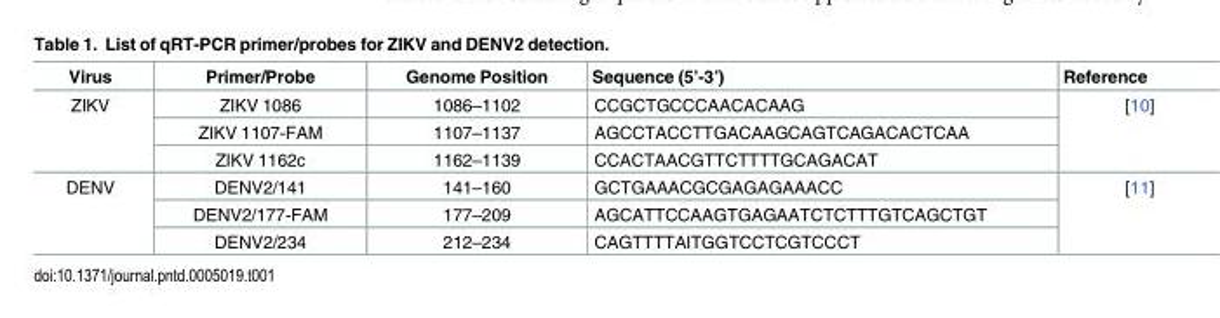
<table><thead><tr><td>Virus</td><td>Primer/Probe</td><td>Genome Position</td><td>Sequence (5’-3’)</td><td>Reference</td></tr></thead><tbody><tr><td rowspan="3">ZIKV</td><td>ZIKV 1086</td><td>1086–1102</td><td>CCGCTGCCCAACACAAG</td><td rowspan="3">[10]</td></tr><tr><td>ZIKV 1107-FAM</td><td>1107–1137</td><td>AGCCTACCTTGACAAGCAGTCAGACACTCAA</td></tr><tr><td>ZIKV 1162c</td><td>1162–1139</td><td>CCACTAACGTTCTTTTGCAGACAT</td></tr><tr><td rowspan="3">DENV</td><td>DENV2/141</td><td>141–160</td><td>GCTGAAACGCGAGAGAAACC</td><td rowspan="3">[11]</td></tr><tr><td>DENV2/177-FAM</td><td>177–209</td><td>AGCATTCCAAGTGAGAATCTCTTTGTCAGCTGT</td></tr><tr><td>DENV2/234</td><td>212–234</td><td>CAGTTTTAITGGTCCTCGTCCCT</td></tr></tbody></table>